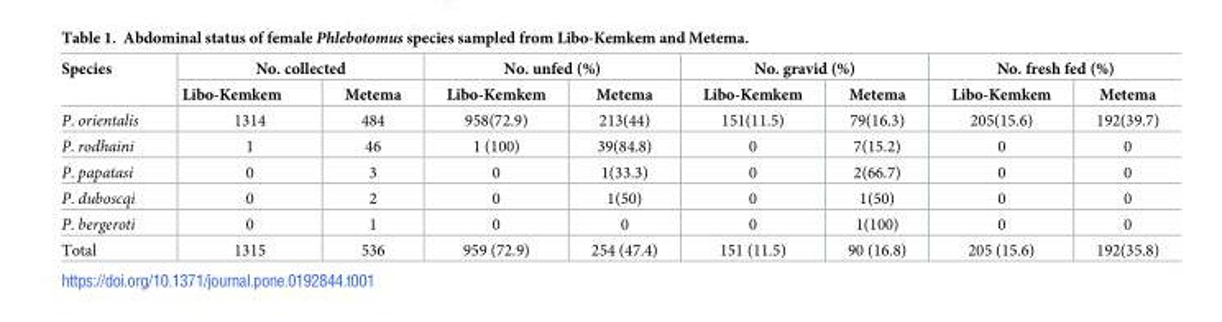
<table><thead><tr><td rowspan="2">Species</td><td colspan="2">No. collected</td><td colspan="2">No. unfed (%)</td><td colspan="2">No. gravid (%)</td><td colspan="2">No. fresh fed (%)</td></tr><tr><td>Libo-Kemkem</td><td>Metema</td><td>Libo-Kemkem</td><td>Metema</td><td>Libo-Kemkem</td><td>Metema</td><td>Libo-Kemkem</td><td>Metema</td></tr></thead><tbody><tr><td>P. orientalis</td><td>1314</td><td>484</td><td>958(72.9)</td><td>213(44)</td><td>151(11.5)</td><td>79(16.3)</td><td>205(15.6)</td><td>192(39.7)</td></tr><tr><td>P. rodhaini</td><td>1</td><td>46</td><td>1 (100)</td><td>39(84.8)</td><td>0</td><td>7(15.2)</td><td>0</td><td>0</td></tr><tr><td>P. papatasi</td><td>0</td><td>3</td><td>0</td><td>1(33.3)</td><td>0</td><td>2(66.7)</td><td>0</td><td>0</td></tr><tr><td>P. duboscqi</td><td>0</td><td>2</td><td>0</td><td>1(50)</td><td>0</td><td>1(50)</td><td>0</td><td>0</td></tr><tr><td>P. bergeroti</td><td>0</td><td>1</td><td>0</td><td>0</td><td>0</td><td>1(100)</td><td>0</td><td>0</td></tr><tr><td>Total</td><td>1315</td><td>536</td><td>959 (72.9)</td><td>254 (47.4)</td><td>151 (11.5)</td><td>90 (16.8)</td><td>205 (15.6)</td><td>192(35.8)</td></tr></tbody></table>